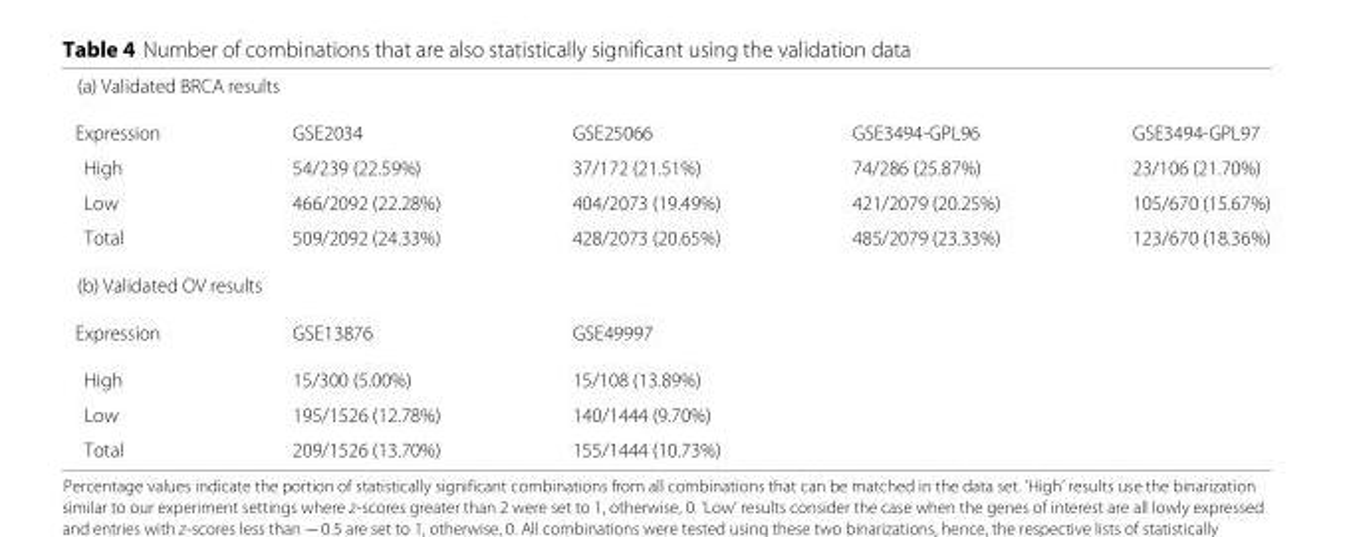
<table><tbody><tr><td colspan="5">(a) Validated BRCA results</td></tr><tr><td>Expression</td><td>GSE2034</td><td>GSE25066</td><td>GSE3494-GPL96</td><td>GSE3494-GPL97</td></tr><tr><td>High</td><td>54/239 (22.59%)</td><td>37/172 (21.51%)</td><td>74/286 (25.87%)</td><td>23/106 (21.70%)</td></tr><tr><td>Low</td><td>466/2092 (22.28%)</td><td>404/2073 (19.49%)</td><td>421/2079 (20.25%)</td><td>105/670 (15.67%)</td></tr><tr><td>Total</td><td>509/2092 (24.33%)</td><td>428/2073 (20.65%)</td><td>485/2079 (23.33%)</td><td>123/670 (18.36%)</td></tr><tr><td colspan="5">(b) Validated OV results</td></tr><tr><td>Expression</td><td>GSE13876</td><td>GSE49997</td><td colspan="2"></td></tr><tr><td>High</td><td>15/300 (5.00%)</td><td>15/108 (13.89%)</td><td colspan="2"></td></tr><tr><td>Low</td><td>195/1526 (12.78%)</td><td>140/1444 (9.70%)</td><td colspan="2"></td></tr><tr><td>Total</td><td>209/1526 (13.70%)</td><td>155/1444 (10.73%)</td><td colspan="2"></td></tr></tbody></table>